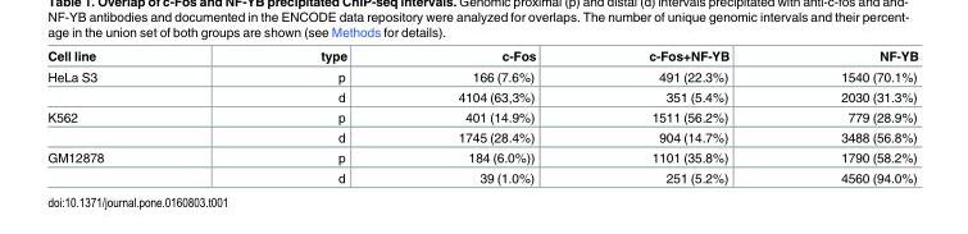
<table><thead><tr><td>Cell line</td><td>type</td><td>c-Fos</td><td>c-Fos+NF-YB</td><td>NF-YB</td></tr></thead><tbody><tr><td rowspan="2">HeLa S3</td><td>p</td><td>166 (7.6%)</td><td>491 (22.3%)</td><td>1540 (70.1%)</td></tr><tr><td>d</td><td>4104 (63,3%)</td><td>351 (5.4%)</td><td>2030 (31.3%)</td></tr><tr><td rowspan="2">K562</td><td>p</td><td>401 (14.9%)</td><td>1511 (56.2%)</td><td>779 (28.9%)</td></tr><tr><td>d</td><td>1745 (28.4%)</td><td>904 (14.7%)</td><td>3488 (56.8%)</td></tr><tr><td rowspan="2">GM12878</td><td>p</td><td>184 (6.0%))</td><td>1101 (35.8%)</td><td>1790 (58.2%)</td></tr><tr><td>d</td><td>39 (1.0%)</td><td>251 (5.2%)</td><td>4560 (94.0%)</td></tr></tbody></table>